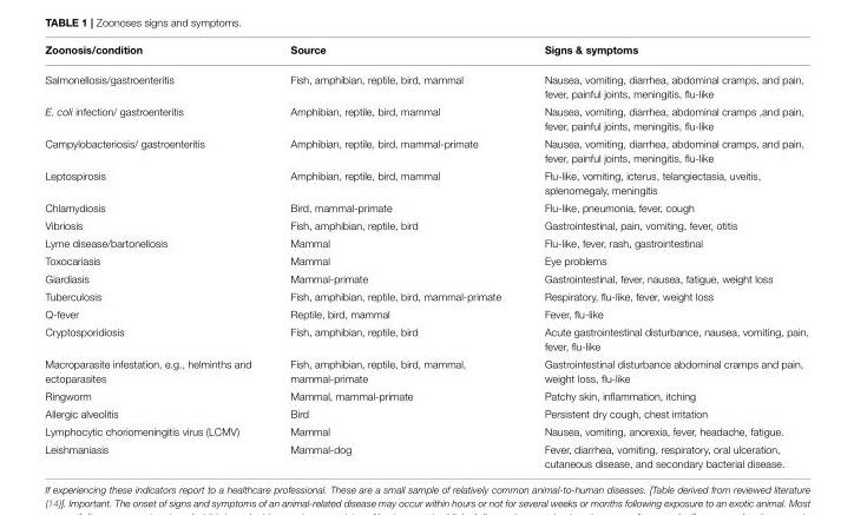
<table><thead><tr><td>Zoonosis/condition</td><td>Source</td><td>Signs &amp; symptoms</td></tr></thead><tbody><tr><td>Salmonellosis/gastroenteritis</td><td>Fish, amphibian, reptile, bird, mammal</td><td>Nausea, vomiting, diarrhea, abdominal cramps, and pain, fever, painful joints, meningitis, flu-like</td></tr><tr><td>E. coli infection/ gastroenteritis</td><td>Amphibian, reptile, bird, mammal</td><td>Nausea, vomiting, diarrhea, abdominal cramps ,and pain, fever, painful joints, meningitis, flu-like</td></tr><tr><td>Campylobacteriosis/ gastroenteritis</td><td>Amphibian, reptile, bird, mammal-primate</td><td>Nausea, vomiting, diarrhea, abdominal cramps, and pain, fever, painful joints, meningitis, flu-like</td></tr><tr><td>Leptospirosis</td><td>Amphibian, reptile, bird, mammal</td><td>Flu-like, vomiting, icterus, telangiectasia, uveitis, splenomegaly, meningitis</td></tr><tr><td>Chlamydiosis</td><td>Bird, mammal-primate</td><td>Flu-like, pneumonia, fever, cough</td></tr><tr><td>Vibriosis</td><td>Fish, amphibian, reptile, bird</td><td>Gastrointestinal, pain, vomiting, fever, otitis</td></tr><tr><td>Lyme disease/bartonellosis</td><td>Mammal</td><td>Flu-like, fever, rash, gastrointestinal</td></tr><tr><td>Toxocariasis</td><td>Mammal</td><td>Eye problems</td></tr><tr><td>Giardiasis</td><td>Mammal-primate</td><td>Gastrointestinal, fever, nausea, fatigue, weight loss</td></tr><tr><td>Tuberculosis</td><td>Fish, amphibian, reptile, bird, mammal-primate</td><td>Respiratory, flu-like, fever, weight loss</td></tr><tr><td>Q-fever</td><td>Reptile, bird, mammal</td><td>Fever, flu-like</td></tr><tr><td>Cryptosporidiosis</td><td>Fish, amphibian, reptile, bird</td><td>Acute gastrointestinal disturbance, nausea, vomiting, pain, fever, flu-like</td></tr><tr><td>Macroparasite infestation, e.g., helminths and ectoparasites</td><td>Fish, amphibian, reptile, bird, mammal, mammal-primate</td><td>Gastrointestinal disturbance abdominal cramps and pain, weight loss, flu-like</td></tr><tr><td>Ringworm</td><td>Mammal, mammal-primate</td><td>Patchy skin, inflammation, itching</td></tr><tr><td>Allergic alveolitis</td><td>Bird</td><td>Persistent dry cough, chest irritation</td></tr><tr><td>Lymphocytic choriomeningitis virus (LCMV)</td><td>Mammal</td><td>Nausea, vomiting, anorexia, fever, headache, fatigue.</td></tr><tr><td>Leishmaniasis</td><td>Mammal-dog</td><td>Fever, diarrhea, vomiting, respiratory, oral ulceration, cutaneous disease, and secondary bacterial disease.</td></tr></tbody></table>